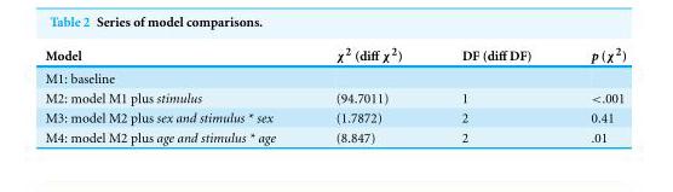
<table><thead><tr><td>Model</td><td>χ<sup>2</sup> (diff χ<sup>2</sup>)</td><td>DF (diff DF)</td><td>p (χ<sup>2</sup>)</td></tr></thead><tbody><tr><td colspan="4">M1: baseline</td></tr><tr><td>M2: model M1 plus stimulus</td><td>(94.7011)</td><td>1</td><td>&lt;.001</td></tr><tr><td>M3: model M2 plus sex and stimulus * sex</td><td>(1.7872)</td><td>2</td><td>0.41</td></tr><tr><td>M4: model M2 plus age and stimulus * age</td><td>(8.847)</td><td>2</td><td>.01</td></tr></tbody></table>